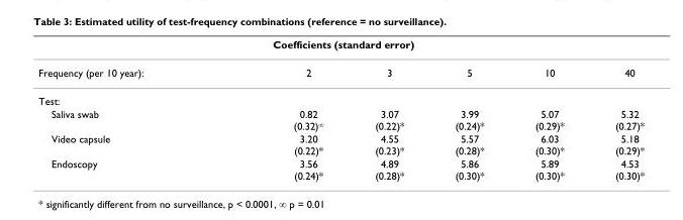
<table><thead><tr><td rowspan="2">Frequency (per 10 year):</td><td colspan="5">Coefficients (standard error)</td></tr><tr><td>2</td><td>3</td><td>5</td><td>10</td><td>40</td></tr></thead><tbody><tr><td colspan="6">Test:</td></tr><tr><td>Saliva swab</td><td>0.82 (0.32)<sup>∞</sup></td><td>3.07 (0.22)*</td><td>3.99 (0.24)*</td><td>5.07 (0.29)*</td><td>5.32 (0.27)*</td></tr><tr><td>Video capsule</td><td>3.20 (0.22)*</td><td>4.55 (0.23)*</td><td>5.57 (0.28)*</td><td>6.03 (0.30)*</td><td>5.18 (0.29)*</td></tr><tr><td>Endoscopy</td><td>3.56 (0.24)*</td><td>4.89 (0.28)*</td><td>5.86 (0.30)*</td><td>5.89 (0.30)*</td><td>4.53 (0.30)*</td></tr></tbody></table>